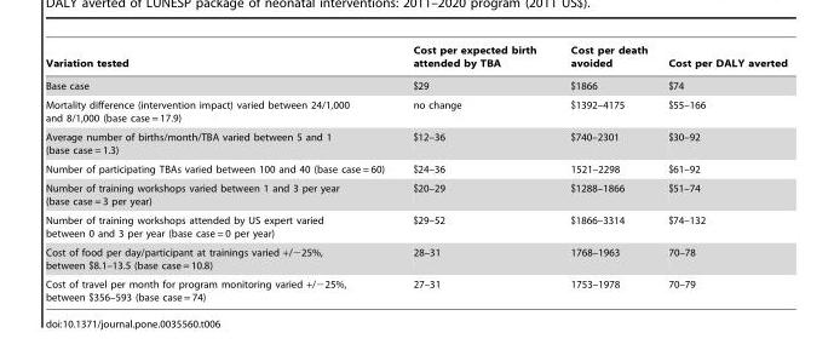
<table><thead><tr><td>Variation tested</td><td>Cost per expected birth attended by TBA</td><td>Cost per death avoided</td><td>Cost per DALY averted</td></tr></thead><tbody><tr><td>Base case</td><td>$29</td><td>$1866</td><td>$74</td></tr><tr><td>Mortality difference (intervention impact) varied between 24/1,000 and 8/1,000 (base case = 17.9)</td><td>no change</td><td>$1392–4175</td><td>$55–166</td></tr><tr><td>Average number of births/month/TBA varied between 5 and 1 (base case = 1.3)</td><td>$12–36</td><td>$740–2301</td><td>$30–92</td></tr><tr><td>Number of participating TBAs varied between 100 and 40 (base case = 60)</td><td>$24–36</td><td>1521–2298</td><td>$61–92</td></tr><tr><td>Number of training workshops varied between 1 and 3 per year (base case = 3 per year)</td><td>$20–29</td><td>$1288–1866</td><td>$51–74</td></tr><tr><td>Number of training workshops attended by US expert varied between 0 and 3 per year (base case = 0 per year)</td><td>$29–52</td><td>$1866–3314</td><td>$74–132</td></tr><tr><td>Cost of food per day/participant at trainings varied +/−25%, between $8.1–13.5 (base case = 10.8)</td><td>28–31</td><td>1768–1963</td><td>70–78</td></tr><tr><td>Cost of travel per month for program monitoring varied +/−25%, between $356–593 (base case = 74)</td><td>27–31</td><td>1753–1978</td><td>70–79</td></tr></tbody></table>